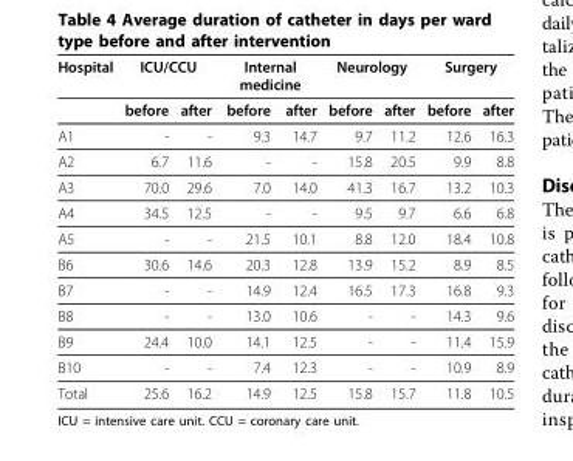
<table><thead><tr><td rowspan="2">Hospital</td><td colspan="2">ICU/CCU</td><td colspan="2">Internal medicine</td><td colspan="2">Neurology</td><td colspan="2">Surgery</td></tr><tr><td>before</td><td>after</td><td>before</td><td>after</td><td>before</td><td>after</td><td>before</td><td>after</td></tr></thead><tbody><tr><td>A1</td><td>-</td><td>-</td><td>9.3</td><td>14.7</td><td>9.7</td><td>11.2</td><td>12.6</td><td>16.3</td></tr><tr><td>A2</td><td>6.7</td><td>11.6</td><td>-</td><td>-</td><td>15.8</td><td>20.5</td><td>9.9</td><td>8.8</td></tr><tr><td>A3</td><td>70.0</td><td>29.6</td><td>7.0</td><td>14.0</td><td>41.3</td><td>16.7</td><td>13.2</td><td>10.3</td></tr><tr><td>A4</td><td>34.5</td><td>12.5</td><td>-</td><td>-</td><td>9.5</td><td>9.7</td><td>6.6</td><td>6.8</td></tr><tr><td>A5</td><td>-</td><td>-</td><td>21.5</td><td>10.1</td><td>8.8</td><td>12.0</td><td>18.4</td><td>10.8</td></tr><tr><td>B6</td><td>30.6</td><td>14.6</td><td>20.3</td><td>12.8</td><td>13.9</td><td>15.2</td><td>8.9</td><td>8.5</td></tr><tr><td>B7</td><td>-</td><td>-</td><td>14.9</td><td>12.4</td><td>16.5</td><td>17.3</td><td>16.8</td><td>9.3</td></tr><tr><td>B8</td><td>-</td><td>-</td><td>13.0</td><td>10.6</td><td>-</td><td>-</td><td>14.3</td><td>9.6</td></tr><tr><td>B9</td><td>24.4</td><td>10.0</td><td>14.1</td><td>12.5</td><td>-</td><td>-</td><td>11.4</td><td>15.9</td></tr><tr><td>B10</td><td>-</td><td>-</td><td>7.4</td><td>12.3</td><td>-</td><td>-</td><td>10.9</td><td>8.9</td></tr><tr><td>Total</td><td>25.6</td><td>16.2</td><td>14.9</td><td>12.5</td><td>15.8</td><td>15.7</td><td>11.8</td><td>10.5</td></tr></tbody></table>